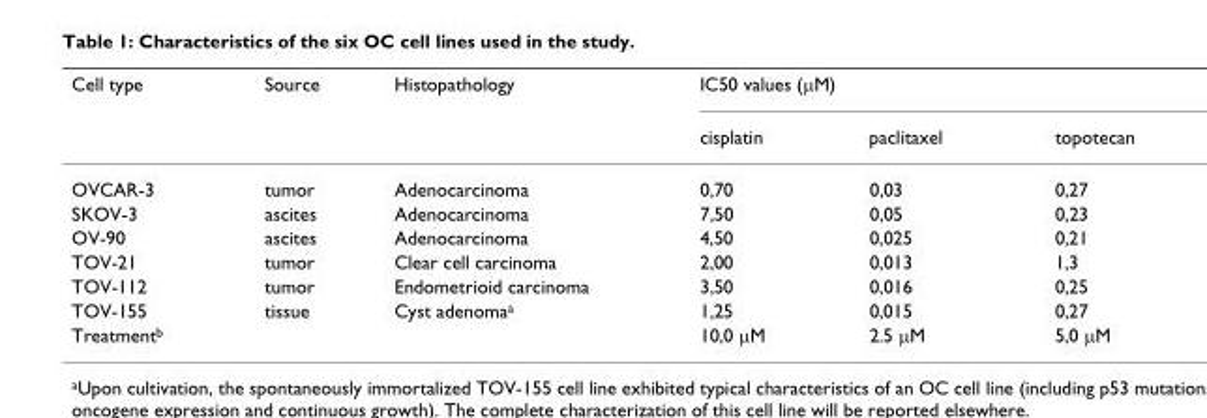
<table><thead><tr><td rowspan="2">Cell type</td><td rowspan="2">Source</td><td rowspan="2">Histopathology</td><td colspan="3">IC50 values (μM)</td></tr><tr><td>cisplatin</td><td>paclitaxel</td><td>topotecan</td></tr></thead><tbody><tr><td>OVCAR-3</td><td>tumor</td><td>Adenocarcinoma</td><td>0,70</td><td>0,03</td><td>0,27</td></tr><tr><td>SKOV-3</td><td>ascites</td><td>Adenocarcinoma</td><td>7,50</td><td>0,05</td><td>0,23</td></tr><tr><td>OV-90</td><td>ascites</td><td>Adenocarcinoma</td><td>4,50</td><td>0,025</td><td>0,21</td></tr><tr><td>TOV-21</td><td>tumor</td><td>Clear cell carcinoma</td><td>2,00</td><td>0,013</td><td>1,3</td></tr><tr><td>TOV-112</td><td>tumor</td><td>Endometrioid carcinoma</td><td>3,50</td><td>0,016</td><td>0,25</td></tr><tr><td>TOV-155</td><td>tissue</td><td>Cyst adenoma<sup>a</sup></td><td>1,25</td><td>0,015</td><td>0,27</td></tr><tr><td>Treatment<sup>b</sup></td><td></td><td></td><td>10,0 μM</td><td>2.5 μM</td><td>5,0 μM</td></tr></tbody></table>